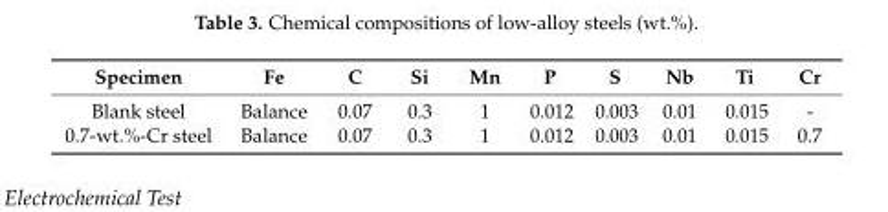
<table><thead><tr><td>Specimen</td><td>Fe</td><td>C</td><td>Si</td><td>Mn</td><td>P</td><td>S</td><td>Nb</td><td>Ti</td><td>Cr</td></tr></thead><tbody><tr><td>Blank steel</td><td>Balance</td><td>0.07</td><td>0.3</td><td>1</td><td>0.012</td><td>0.003</td><td>0.01</td><td>0.015</td><td>-</td></tr><tr><td>0.7-wt.%-Cr steel</td><td>Balance</td><td>0.07</td><td>0.3</td><td>1</td><td>0.012</td><td>0.003</td><td>0.01</td><td>0.015</td><td>0.7</td></tr></tbody></table>